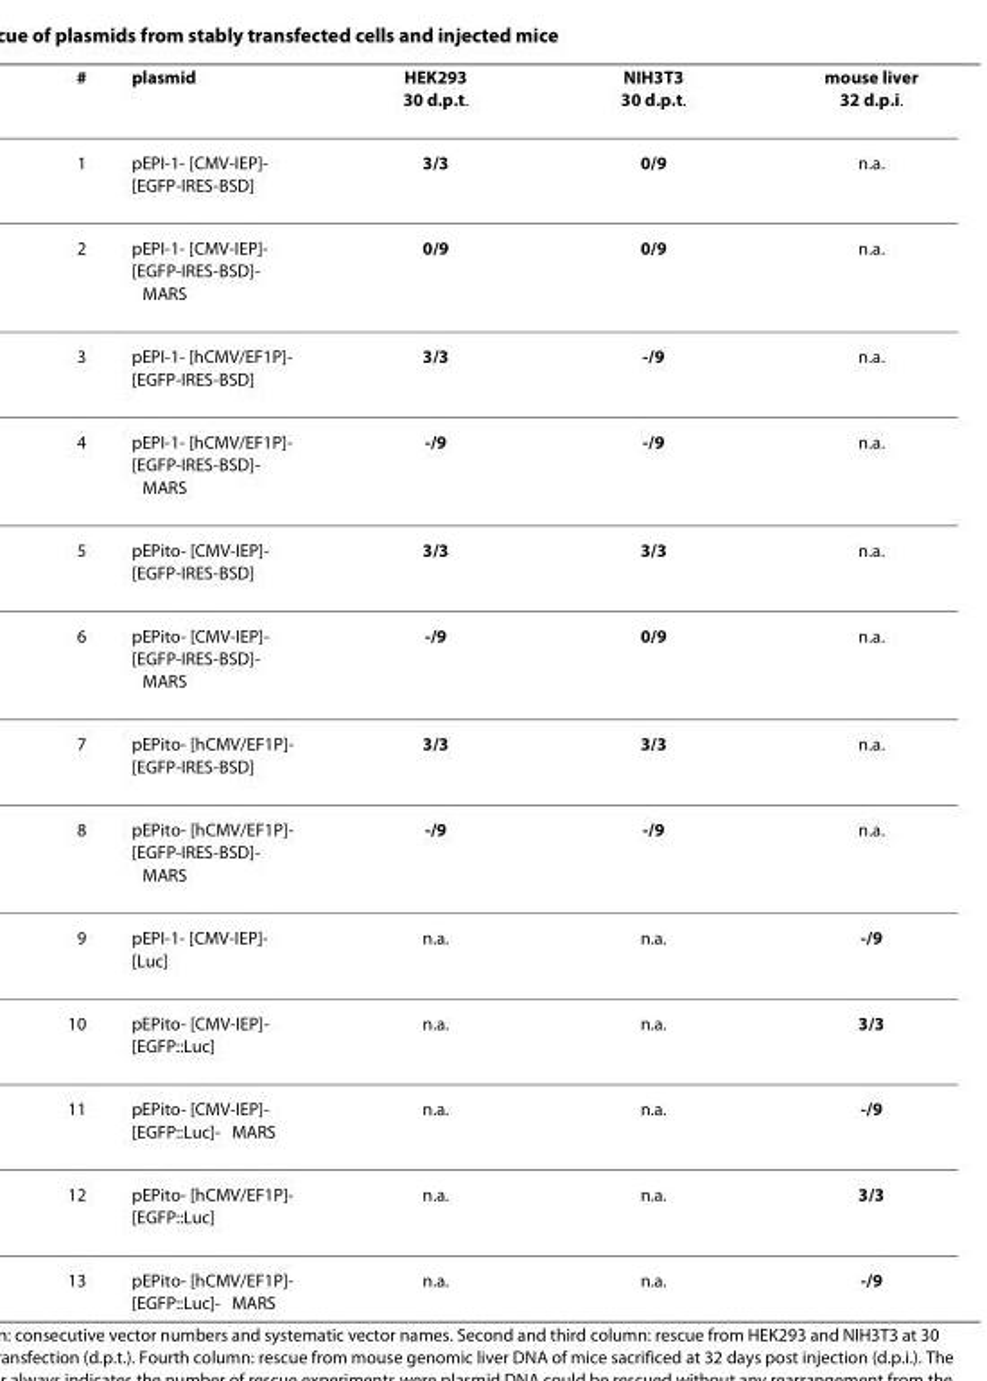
<table><thead><tr><td>#</td><td>plasmid</td><td>HEK293 30 d.p.t.</td><td>NIH3T3 30 d.p.t.</td><td>mouse liver 32 d.p.i.</td></tr></thead><tbody><tr><td>1</td><td>pEPI-1- [CMV-IEP]- [EGFP-IRES-BSD]</td><td>3/3</td><td>0/9</td><td>n.a.</td></tr><tr><td>2</td><td>pEPI-1- [CMV-IEP]- [EGFP-IRES-BSD]- MARS</td><td>0/9</td><td>0/9</td><td>n.a.</td></tr><tr><td>3</td><td>pEPI-1- [hCMV/EF1P]- [EGFP-IRES-BSD]</td><td>3/3</td><td>-/9</td><td>n.a.</td></tr><tr><td>4</td><td>pEPI-1- [hCMV/EF1P]- [EGFP-IRES-BSD]- MARS</td><td>-/9</td><td>-/9</td><td>n.a.</td></tr><tr><td>5</td><td>pEPito- [CMV-IEP]- [EGFP-IRES-BSD]</td><td>3/3</td><td>3/3</td><td>n.a.</td></tr><tr><td>6</td><td>pEPito- [CMV-IEP]- [EGFP-IRES-BSD]- MARS</td><td>-/9</td><td>0/9</td><td>n.a.</td></tr><tr><td>7</td><td>pEPito- [hCMV/EF1P]- [EGFP-IRES-BSD]</td><td>3/3</td><td>3/3</td><td>n.a.</td></tr><tr><td>8</td><td>pEPito- [hCMV/EF1P]- [EGFP-IRES-BSD]- MARS</td><td>-/9</td><td>-/9</td><td>n.a.</td></tr><tr><td>9</td><td>pEPI-1- [CMV-IEP]- [Luc]</td><td>n.a.</td><td>n.a.</td><td>-/9</td></tr><tr><td>10</td><td>pEPito- [CMV-IEP]- [EGFP::Luc]</td><td>n.a.</td><td>n.a.</td><td>3/3</td></tr><tr><td>11</td><td>pEPito- [CMV-IEP]- [EGFP::Luc]- MARS</td><td>n.a.</td><td>n.a.</td><td>-/9</td></tr><tr><td>12</td><td>pEPito- [hCMV/EF1P]- [EGFP::Luc]</td><td>n.a.</td><td>n.a.</td><td>3/3</td></tr><tr><td>13</td><td>pEPito- [hCMV/EF1P]- [EGFP::Luc]- MARS</td><td>n.a.</td><td>n.a.</td><td>-/9</td></tr></tbody></table>